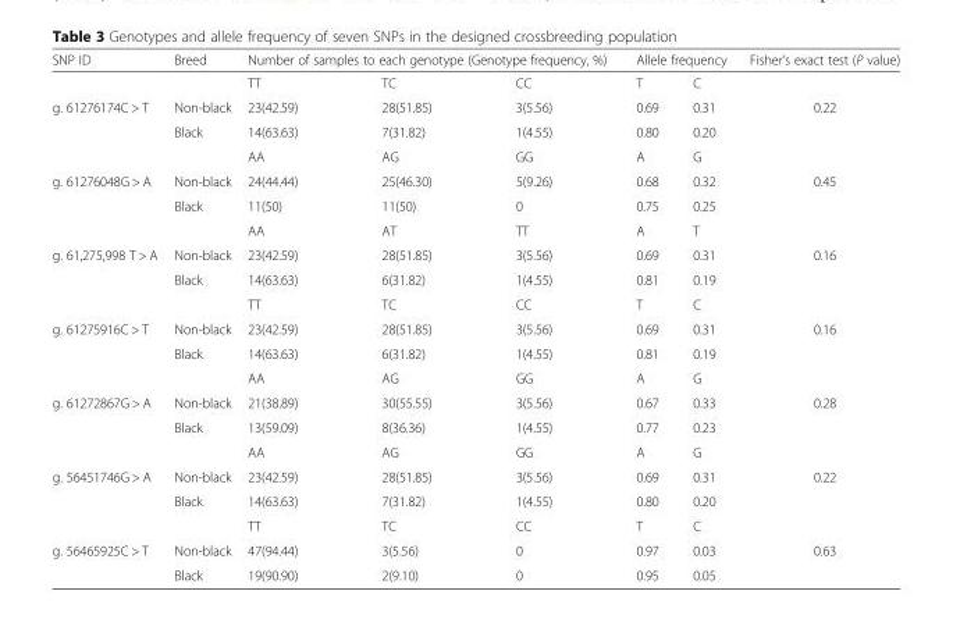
<table><thead><tr><td rowspan="2">SNP ID</td><td rowspan="2">Breed</td><td colspan="3">Number of samples to each genotype (Genotype frequency, %)</td><td colspan="2">Allele frequency</td><td rowspan="2">Fisher’s exact test (P value)</td></tr><tr><td>TT</td><td>TC</td><td>CC</td><td>T</td><td>C</td></tr></thead><tbody><tr><td rowspan="3">g. 61276174C &gt; T</td><td>Non-black</td><td>23(42.59)</td><td>28(51.85)</td><td>3(5.56)</td><td>0.69</td><td>0.31</td><td>0.22</td></tr><tr><td>Black</td><td>14(63.63)</td><td>7(31.82)</td><td>1(4.55)</td><td>0.80</td><td>0.20</td><td></td></tr><tr><td></td><td>AA</td><td>AG</td><td>GG</td><td>A</td><td>G</td><td></td></tr><tr><td rowspan="3">g. 61276048G &gt; A</td><td>Non-black</td><td>24(44.44)</td><td>25(46.30)</td><td>5(9.26)</td><td>0.68</td><td>0.32</td><td>0.45</td></tr><tr><td>Black</td><td>11(50)</td><td>11(50)</td><td>0</td><td>0.75</td><td>0.25</td><td></td></tr><tr><td></td><td>AA</td><td>AT</td><td>TT</td><td>A</td><td>T</td><td></td></tr><tr><td rowspan="3">g. 61,275,998 T &gt; A</td><td>Non-black</td><td>23(42.59)</td><td>28(51.85)</td><td>3(5.56)</td><td>0.69</td><td>0.31</td><td>0.16</td></tr><tr><td>Black</td><td>14(63.63)</td><td>6(31.82)</td><td>1(4.55)</td><td>0.81</td><td>0.19</td><td></td></tr><tr><td></td><td>TT</td><td>TC</td><td>CC</td><td>T</td><td>C</td><td></td></tr><tr><td rowspan="3">g. 61275916C &gt; T</td><td>Non-black</td><td>23(42.59)</td><td>28(51.85)</td><td>3(5.56)</td><td>0.69</td><td>0.31</td><td>0.16</td></tr><tr><td>Black</td><td>14(63.63)</td><td>6(31.82)</td><td>1(4.55)</td><td>0.81</td><td>0.19</td><td></td></tr><tr><td></td><td>AA</td><td>AG</td><td>GG</td><td>A</td><td>G</td><td></td></tr><tr><td rowspan="3">g. 61272867G &gt; A</td><td>Non-black</td><td>21(38.89)</td><td>30(55.55)</td><td>3(5.56)</td><td>0.67</td><td>0.33</td><td>0.28</td></tr><tr><td>Black</td><td>13(59.09)</td><td>8(36.36)</td><td>1(4.55)</td><td>0.77</td><td>0.23</td><td></td></tr><tr><td></td><td>AA</td><td>AG</td><td>GG</td><td>A</td><td>G</td><td></td></tr><tr><td rowspan="3">g. 56451746G &gt; A</td><td>Non-black</td><td>23(42.59)</td><td>28(51.85)</td><td>3(5.56)</td><td>0.69</td><td>0.31</td><td>0.22</td></tr><tr><td>Black</td><td>14(63.63)</td><td>7(31.82)</td><td>1(4.55)</td><td>0.80</td><td>0.20</td><td></td></tr><tr><td></td><td>TT</td><td>TC</td><td>CC</td><td>T</td><td>C</td><td></td></tr><tr><td rowspan="2">g. 56465925C &gt; T</td><td>Non-black</td><td>47(94.44)</td><td>3(5.56)</td><td>0</td><td>0.97</td><td>0.03</td><td>0.63</td></tr><tr><td>Black</td><td>19(90.90)</td><td>2(9.10)</td><td>0</td><td>0.95</td><td>0.05</td><td></td></tr></tbody></table>